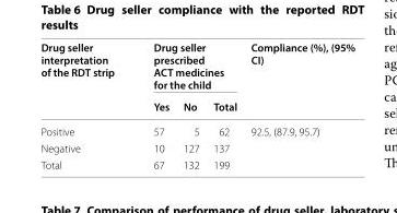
<table><thead><tr><td rowspan="2">Drug seller interpretation of the RDT strip</td><td colspan="3">Drug seller prescribed ACT medicines for the child</td><td rowspan="2">Compliance (%), (95% CI)</td></tr><tr><td>Yes</td><td>No</td><td>Total</td></tr></thead><tbody><tr><td>Positive</td><td>57</td><td>5</td><td>62</td><td rowspan="3">92.5, (87.9, 95.7)</td></tr><tr><td>Negative</td><td>10</td><td>127</td><td>137</td></tr><tr><td>Total</td><td>67</td><td>132</td><td>199</td></tr></tbody></table>